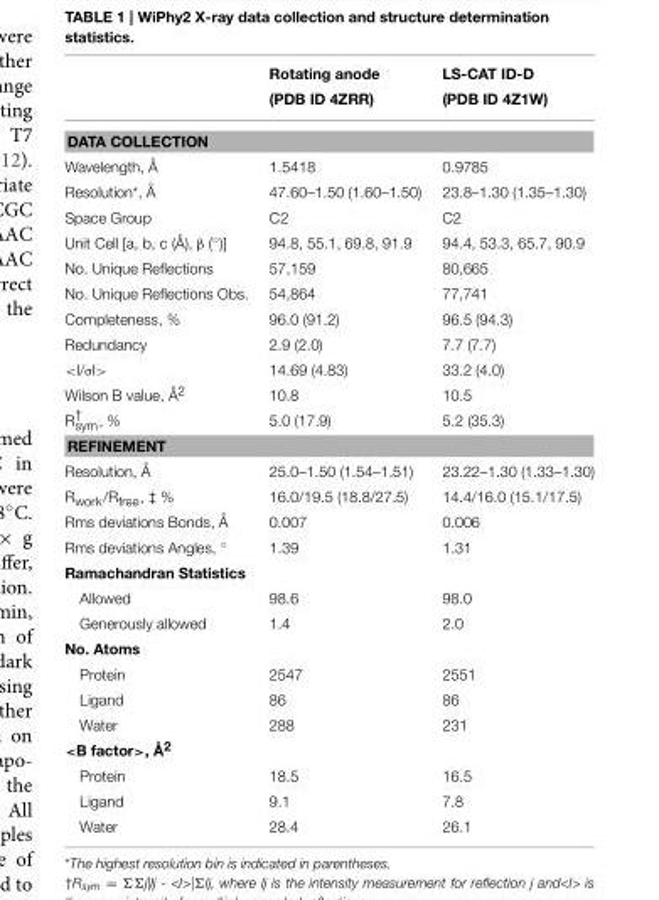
<table><thead><tr><td></td><td>Rotating anode (PDB ID 4ZRR)</td><td>LS-CAT ID-D (PDB ID 4Z1W)</td></tr></thead><tbody><tr><td colspan="3">DATA COLLECTION</td></tr><tr><td>Wavelength, Å</td><td>1.5418</td><td>0.9785</td></tr><tr><td>Resolution*, Å</td><td>47.60–1.50 (1.60–1.50)</td><td>23.8–1.30 (1.35–1.30)</td></tr><tr><td>Space Group</td><td>C2</td><td>C2</td></tr><tr><td>Unit Cell [a, b, c (Å), β (◦)]</td><td>94.8, 55.1, 69.8, 91.9</td><td>94.4, 53.3, 65.7, 90.9</td></tr><tr><td>No. Unique Reflections</td><td>57,159</td><td>80,665</td></tr><tr><td>No. Unique Reflections Obs.</td><td>54,864</td><td>77,741</td></tr><tr><td>Completeness, %</td><td>96.0 (91.2)</td><td>96.5 (94.3)</td></tr><tr><td>Redundancy</td><td>2.9 (2.0)</td><td>7.7 (7.7)</td></tr><tr><td>&lt;I/σI&gt;</td><td>14.69 (4.83)</td><td>33.2 (4.0)</td></tr><tr><td>Wilson B value, Å<sup>2</sup></td><td>10.8</td><td>10.5</td></tr><tr><td>R† <sub>sym</sub>, %</td><td>5.0 (17.9)</td><td>5.2 (35.3)</td></tr><tr><td colspan="3">REFINEMENT</td></tr><tr><td>Resolution, Å</td><td>25.0–1.50 (1.54–1.51)</td><td>23.22–1.30 (1.33–1.30)</td></tr><tr><td>R<sub>work</sub>/R<sub>free</sub>, <sup>‡</sup> %</td><td>16.0/19.5 (18.8/27.5)</td><td>14.4/16.0 (15.1/17.5)</td></tr><tr><td>Rms deviations Bonds, Å</td><td>0.007</td><td>0.006</td></tr><tr><td>Rms deviations Angles, ◦</td><td>1.39</td><td>1.31</td></tr><tr><td colspan="3">Ramachandran Statistics</td></tr><tr><td>Allowed</td><td>98.6</td><td>98.0</td></tr><tr><td>Generously allowed</td><td>1.4</td><td>2.0</td></tr><tr><td colspan="3">No. Atoms</td></tr><tr><td>Protein</td><td>2547</td><td>2551</td></tr><tr><td>Ligand</td><td>86</td><td>86</td></tr><tr><td>Water</td><td>288</td><td>231</td></tr><tr><td colspan="3">&lt;B factor&gt;, Å<sup>2</sup></td></tr><tr><td>Protein</td><td>18.5</td><td>16.5</td></tr><tr><td>Ligand</td><td>9.1</td><td>7.8</td></tr><tr><td>Water</td><td>28.4</td><td>26.1</td></tr></tbody></table>